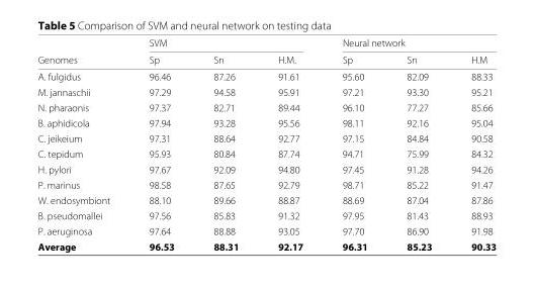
<table><thead><tr><td rowspan="2">Genomes</td><td colspan="3">SVM</td><td colspan="3">Neural network</td></tr><tr><td>Sp</td><td>Sn</td><td>H.M.</td><td>Sp</td><td>Sn</td><td>H.M</td></tr></thead><tbody><tr><td>A. fulgidus</td><td>96.46</td><td>87.26</td><td>91.61</td><td>95.60</td><td>82.09</td><td>88.33</td></tr><tr><td>M. jannaschii</td><td>97.29</td><td>94.58</td><td>95.91</td><td>97.21</td><td>93.30</td><td>95.21</td></tr><tr><td>N. pharaonis</td><td>97.37</td><td>82.71</td><td>89.44</td><td>96.10</td><td>77.27</td><td>85.66</td></tr><tr><td>B. aphidicola</td><td>97.94</td><td>93.28</td><td>95.56</td><td>98.11</td><td>92.16</td><td>95.04</td></tr><tr><td>C. jeikeium</td><td>97.31</td><td>88.64</td><td>92.77</td><td>97.15</td><td>84.84</td><td>90.58</td></tr><tr><td>C. tepidum</td><td>95.93</td><td>80.84</td><td>87.74</td><td>94.71</td><td>75.99</td><td>84.32</td></tr><tr><td>H. pylori</td><td>97.67</td><td>92.09</td><td>94.80</td><td>97.45</td><td>91.28</td><td>94.26</td></tr><tr><td>P. marinus</td><td>98.58</td><td>87.65</td><td>92.79</td><td>98.71</td><td>85.22</td><td>91.47</td></tr><tr><td>W. endosymbiont</td><td>88.10</td><td>89.66</td><td>88.87</td><td>88.69</td><td>87.04</td><td>87.86</td></tr><tr><td>B. pseudomallei</td><td>97.56</td><td>85.83</td><td>91.32</td><td>97.95</td><td>81.43</td><td>88.93</td></tr><tr><td>P. aeruginosa</td><td>97.64</td><td>88.88</td><td>93.05</td><td>97.70</td><td>86.90</td><td>91.98</td></tr><tr><td>Average</td><td>96.53</td><td>88.31</td><td>92.17</td><td>96.31</td><td>85.23</td><td>90.33</td></tr></tbody></table>